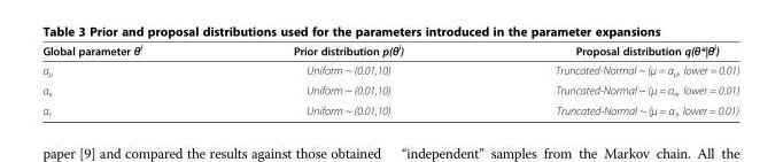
<table><thead><tr><td>Global parameter θ<sup>i</sup></td><td>Prior distribution p(θ<sup>i</sup>)</td><td>Proposal distribution q(θ*|θ<sup>i</sup>)</td></tr></thead><tbody><tr><td>α<sub>μ</sub></td><td>Uniform ~ (0.01,10)</td><td>Truncated-Normal ~ (μ = αμ, lower = 0.01)</td></tr><tr><td>α<sub>κ</sub></td><td>Uniform ~ (0.01,10)</td><td>Truncated-Normal ~ (μ = ακ, lower = 0.01)</td></tr><tr><td>α<sub>τ</sub></td><td>Uniform ~ (0.01,10)</td><td>Truncated-Normal ~ (μ = ατ, lower = 0.01)</td></tr></tbody></table>